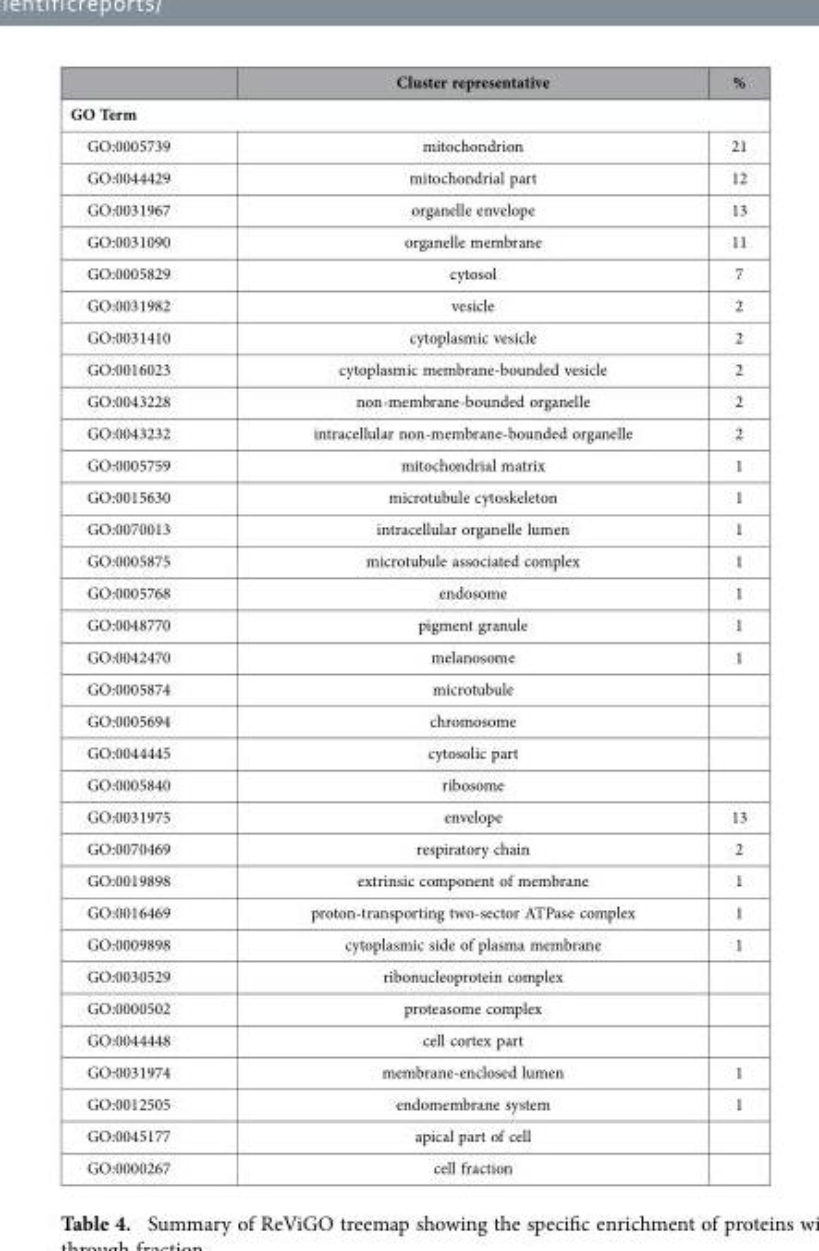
<table><thead><tr><td></td><td>Cluster representative</td><td>%</td></tr></thead><tbody><tr><td colspan="3">GO Term</td></tr><tr><td>GO:0005739</td><td>mitochondrion</td><td>21</td></tr><tr><td>GO:0044429</td><td>mitochondrial part</td><td>12</td></tr><tr><td>GO:0031967</td><td>organelle envelope</td><td>13</td></tr><tr><td>GO:0031090</td><td>organelle membrane</td><td>11</td></tr><tr><td>GO:0005829</td><td>cytosol</td><td>7</td></tr><tr><td>GO:0031982</td><td>vesicle</td><td>2</td></tr><tr><td>GO:0031410</td><td>cytoplasmic vesicle</td><td>2</td></tr><tr><td>GO:0016023</td><td>cytoplasmic membrane-bounded vesicle</td><td>2</td></tr><tr><td>GO:0043228</td><td>non-membrane-bounded organelle</td><td>2</td></tr><tr><td>GO:0043232</td><td>intracellular non-membrane-bounded organelle</td><td>2</td></tr><tr><td>GO:0005759</td><td>mitochondrial matrix</td><td>1</td></tr><tr><td>GO:0015630</td><td>microtubule cytoskeleton</td><td>1</td></tr><tr><td>GO:0070013</td><td>intracellular organelle lumen</td><td>1</td></tr><tr><td>GO:0005875</td><td>microtubule associated complex</td><td>1</td></tr><tr><td>GO:0005768</td><td>endosome</td><td>1</td></tr><tr><td>GO:0048770</td><td>pigment granule</td><td>1</td></tr><tr><td>GO:0042470</td><td>melanosome</td><td>1</td></tr><tr><td>GO:0005874</td><td>microtubule</td><td></td></tr><tr><td>GO:0005694</td><td>chromosome</td><td></td></tr><tr><td>GO:0044445</td><td>cytosolic part</td><td></td></tr><tr><td>GO:0005840</td><td>ribosome</td><td></td></tr><tr><td>GO:0031975</td><td>envelope</td><td>13</td></tr><tr><td>GO:0070469</td><td>respiratory chain</td><td>2</td></tr><tr><td>GO:0019898</td><td>extrinsic component of membrane</td><td>1</td></tr><tr><td>GO:0016469</td><td>proton-transporting two-sector ATPase complex</td><td>1</td></tr><tr><td>GO:0009898</td><td>cytoplasmic side of plasma membrane</td><td>1</td></tr><tr><td>GO:0030529</td><td>ribonucleoprotein complex</td><td></td></tr><tr><td>GO:0000502</td><td>proteasome complex</td><td></td></tr><tr><td>GO:0044448</td><td>cell cortex part</td><td></td></tr><tr><td>GO:0031974</td><td>membrane-enclosed lumen</td><td>1</td></tr><tr><td>GO:0012505</td><td>endomembrane system</td><td>1</td></tr><tr><td>GO:0045177</td><td>apical part of cell</td><td></td></tr><tr><td>GO:0000267</td><td>cell fraction</td><td></td></tr></tbody></table>